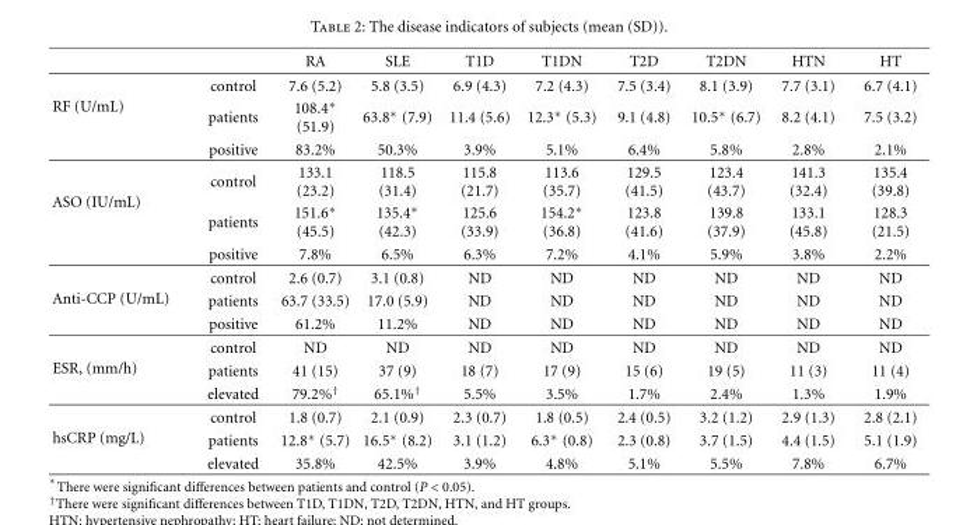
<table><thead><tr><td></td><td></td><td>RA</td><td>SLE</td><td>T1D</td><td>T1DN</td><td>T2D</td><td>T2DN</td><td>HTN</td><td>HT</td></tr></thead><tbody><tr><td rowspan="3">RF (U/mL)</td><td>control</td><td>7.6 (5.2)</td><td>5.8 (3.5)</td><td>6.9 (4.3)</td><td>7.2 (4.3)</td><td>7.5 (3.4)</td><td>8.1 (3.9)</td><td>7.7 (3.1)</td><td>6.7 (4.1)</td></tr><tr><td>patients</td><td>108.4∗ (51.9)</td><td>63.8∗ (7.9)</td><td>11.4 (5.6)</td><td>12.3∗ (5.3)</td><td>9.1 (4.8)</td><td>10.5∗ (6.7)</td><td>8.2 (4.1)</td><td>7.5 (3.2)</td></tr><tr><td>positive</td><td>83.2%</td><td>50.3%</td><td>3.9%</td><td>5.1%</td><td>6.4%</td><td>5.8%</td><td>2.8%</td><td>2.1%</td></tr><tr><td rowspan="3">ASO (IU/mL)</td><td>control</td><td>133.1 (23.2)</td><td>118.5 (31.4)</td><td>115.8 (21.7)</td><td>113.6 (35.7)</td><td>129.5 (41.5)</td><td>123.4 (43.7)</td><td>141.3 (32.4)</td><td>135.4 (39.8)</td></tr><tr><td>patients</td><td>151.6∗ (45.5)</td><td>135.4∗ (42.3)</td><td>125.6 (33.9)</td><td>154.2∗ (36.8)</td><td>123.8 (41.6)</td><td>139.8 (37.9)</td><td>133.1 (45.8)</td><td>128.3 (21.5)</td></tr><tr><td>positive</td><td>7.8%</td><td>6.5%</td><td>6.3%</td><td>7.2%</td><td>4.1%</td><td>5.9%</td><td>3.8%</td><td>2.2%</td></tr><tr><td rowspan="3">Anti-CCP (U/mL)</td><td>control</td><td>2.6 (0.7)</td><td>3.1 (0.8)</td><td>ND</td><td>ND</td><td>ND</td><td>ND</td><td>ND</td><td>ND</td></tr><tr><td>patients</td><td>63.7 (33.5)</td><td>17.0 (5.9)</td><td>ND</td><td>ND</td><td>ND</td><td>ND</td><td>ND</td><td>ND</td></tr><tr><td>positive</td><td>61.2%</td><td>11.2%</td><td>ND</td><td>ND</td><td>ND</td><td>ND</td><td>ND</td><td>ND</td></tr><tr><td rowspan="3">ESR, (mm/h)</td><td>control</td><td>ND</td><td>ND</td><td>ND</td><td>ND</td><td>ND</td><td>ND</td><td>ND</td><td>ND</td></tr><tr><td>patients</td><td>41 (15)</td><td>37 (9)</td><td>18 (7)</td><td>17 (9)</td><td>15 (6)</td><td>19 (5)</td><td>11 (3)</td><td>11 (4)</td></tr><tr><td>elevated</td><td>79.2%<sup>†</sup></td><td>65.1%<sup>†</sup></td><td>5.5%</td><td>3.5%</td><td>1.7%</td><td>2.4%</td><td>1.3%</td><td>1.9%</td></tr><tr><td rowspan="3">hsCRP (mg/L)</td><td>control</td><td>1.8 (0.7)</td><td>2.1 (0.9)</td><td>2.3 (0.7)</td><td>1.8 (0.5)</td><td>2.4 (0.5)</td><td>3.2 (1.2)</td><td>2.9 (1.3)</td><td>2.8 (2.1)</td></tr><tr><td>patients</td><td>12.8∗ (5.7)</td><td>16.5∗ (8.2)</td><td>3.1 (1.2)</td><td>6.3∗ (0.8)</td><td>2.3 (0.8)</td><td>3.7 (1.5)</td><td>4.4 (1.5)</td><td>5.1 (1.9)</td></tr><tr><td>elevated</td><td>35.8%</td><td>42.5%</td><td>3.9%</td><td>4.8%</td><td>5.1%</td><td>5.5%</td><td>7.8%</td><td>6.7%</td></tr></tbody></table>